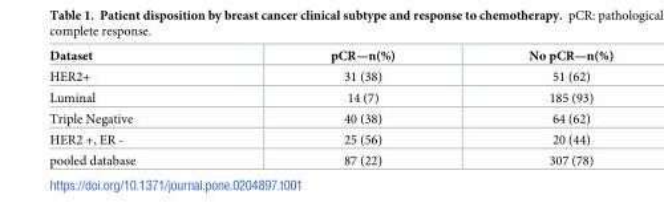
<table><thead><tr><td>Dataset</td><td>pCR—n(%)</td><td>No pCR—n(%)</td></tr></thead><tbody><tr><td>HER2+</td><td>31 (38)</td><td>51 (62)</td></tr><tr><td>Luminal</td><td>14 (7)</td><td>185 (93)</td></tr><tr><td>Triple Negative</td><td>40 (38)</td><td>64 (62)</td></tr><tr><td>HER2 +, ER -</td><td>25 (56)</td><td>20 (44)</td></tr><tr><td>pooled database</td><td>87 (22)</td><td>307 (78)</td></tr></tbody></table>